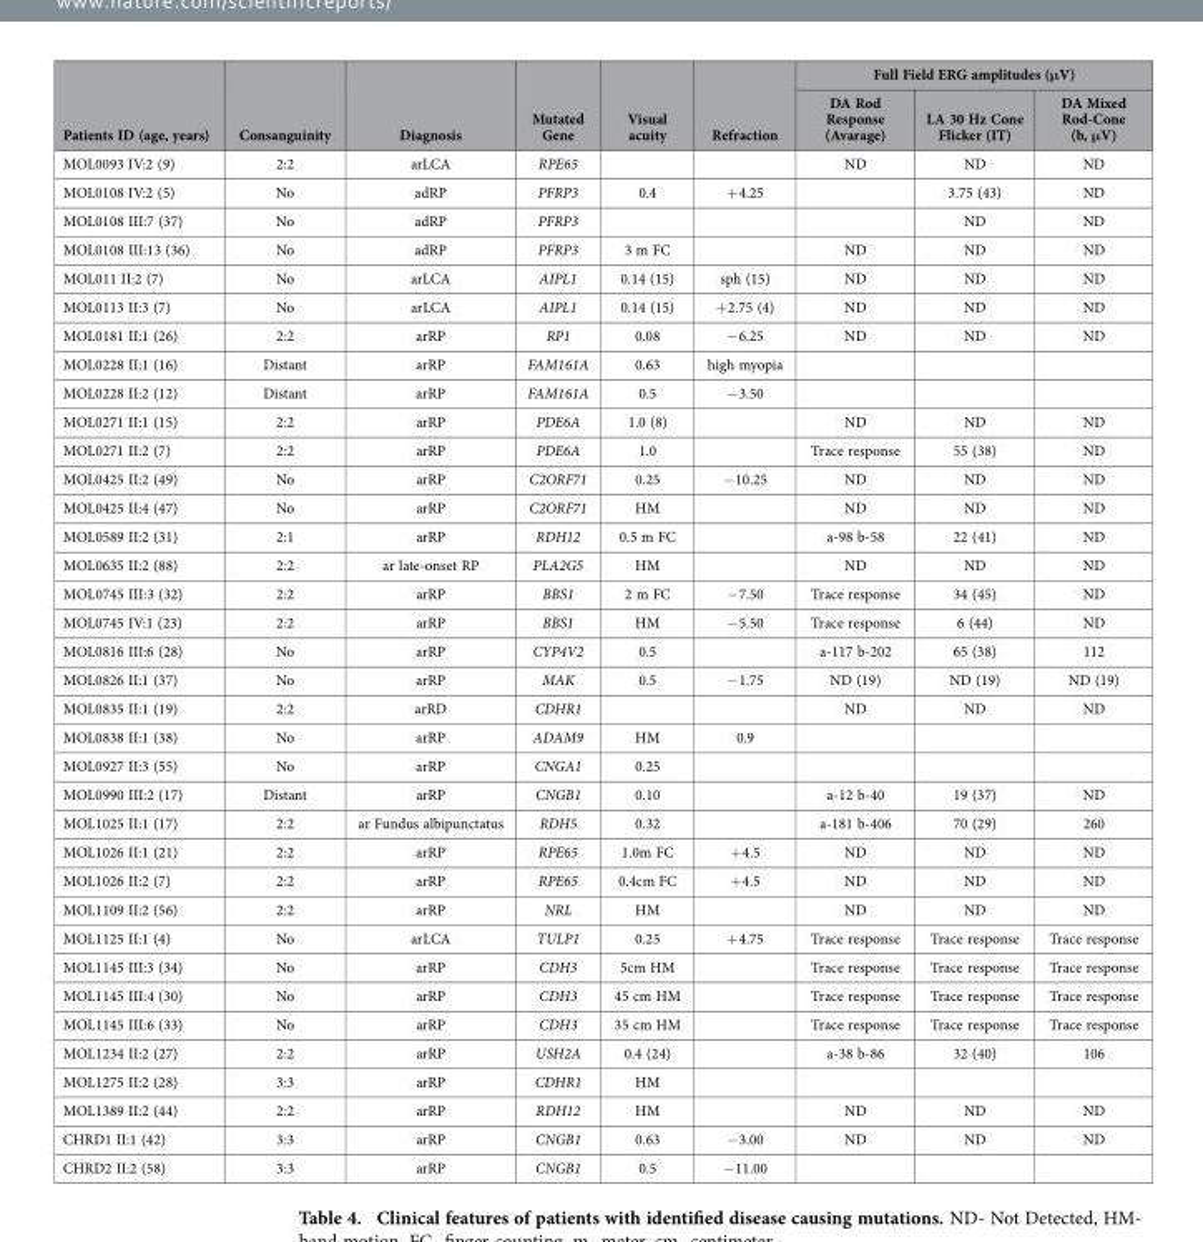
<table><thead><tr><td rowspan="2">Patients ID (age, years)</td><td rowspan="2">Consanguinity</td><td rowspan="2">Diagnosis</td><td rowspan="2">Mutated Gene</td><td rowspan="2">Visual acuity</td><td rowspan="2">Refraction</td><td colspan="3">Full Field ERG amplitudes (μV)</td></tr><tr><td>DA Rod Response (Avarage)</td><td>LA 30 Hz Cone Flicker (IT)</td><td>DA Mixed Rod-Cone (b, μV)</td></tr></thead><tbody><tr><td>MOL0093 IV:2 (9)</td><td>2:2</td><td>arLCA</td><td>RPE65</td><td></td><td></td><td>ND</td><td>ND</td><td>ND</td></tr><tr><td>MOL0108 IV:2 (5)</td><td>No</td><td>adRP</td><td>PFRP3</td><td>0.4</td><td>+ 4.25</td><td></td><td>3.75 (43)</td><td>ND</td></tr><tr><td>MOL0108 III:7 (37)</td><td>No</td><td>adRP</td><td>PFRP3</td><td></td><td></td><td></td><td>ND</td><td>ND</td></tr><tr><td>MOL0108 III:13 (36)</td><td>No</td><td>adRP</td><td>PFRP3</td><td>3 m FC</td><td></td><td>ND</td><td>ND</td><td>ND</td></tr><tr><td>MOL011 II:2 (7)</td><td>No</td><td>arLCA</td><td>AIPL1</td><td>0.14 (15)</td><td>sph (15)</td><td>ND</td><td>ND</td><td>ND</td></tr><tr><td>MOL0113 II:3 (7)</td><td>No</td><td>arLCA</td><td>AIPL1</td><td>0.14 (15)</td><td>+ 2.75 (4)</td><td>ND</td><td>ND</td><td>ND</td></tr><tr><td>MOL0181 II:1 (26)</td><td>2:2</td><td>arRP</td><td>RP1</td><td>0.08</td><td>− 6.25</td><td>ND</td><td>ND</td><td>ND</td></tr><tr><td>MOL0228 II:1 (16)</td><td>Distant</td><td>arRP</td><td>FAM161A</td><td>0.63</td><td>high myopia</td><td></td><td></td><td></td></tr><tr><td>MOL0228 II:2 (12)</td><td>Distant</td><td>arRP</td><td>FAM161A</td><td>0.5</td><td>− 3.50</td><td></td><td></td><td></td></tr><tr><td>MOL0271 II:1 (15)</td><td>2:2</td><td>arRP</td><td>PDE6A</td><td>1.0 (8)</td><td></td><td>ND</td><td>ND</td><td>ND</td></tr><tr><td>MOL0271 II:2 (7)</td><td>2:2</td><td>arRP</td><td>PDE6A</td><td>1.0</td><td></td><td>Trace response</td><td>55 (38)</td><td>ND</td></tr><tr><td>MOL0425 II:2 (49)</td><td>No</td><td>arRP</td><td>C2ORF71</td><td>0.25</td><td>− 10.25</td><td>ND</td><td>ND</td><td>ND</td></tr><tr><td>MOL0425 II:4 (47)</td><td>No</td><td>arRP</td><td>C2ORF71</td><td>HM</td><td></td><td>ND</td><td>ND</td><td>ND</td></tr><tr><td>MOL0589 II:2 (31)</td><td>2:1</td><td>arRP</td><td>RDH12</td><td>0.5 m FC</td><td></td><td>a-98 b-58</td><td>22 (41)</td><td>ND</td></tr><tr><td>MOL0635 II:2 (88)</td><td>2:2</td><td>ar late-onset RP</td><td>PLA2G5</td><td>HM</td><td></td><td>ND</td><td>ND</td><td>ND</td></tr><tr><td>MOL0745 III:3 (32)</td><td>2:2</td><td>arRP</td><td>BBS1</td><td>2 m FC</td><td>− 7.50</td><td>Trace response</td><td>34 (45)</td><td>ND</td></tr><tr><td>MOL0745 IV:1 (23)</td><td>2:2</td><td>arRP</td><td>BBS1</td><td>HM</td><td>− 5.50</td><td>Trace response</td><td>6 (44)</td><td>ND</td></tr><tr><td>MOL0816 III:6 (28)</td><td>No</td><td>arRP</td><td>CYP4V2</td><td>0.5</td><td></td><td>a-117 b-202</td><td>65 (38)</td><td>112</td></tr><tr><td>MOL0826 II:1 (37)</td><td>No</td><td>arRP</td><td>MAK</td><td>0.5</td><td>− 1.75</td><td>ND (19)</td><td>ND (19)</td><td>ND (19)</td></tr><tr><td>MOL0835 II:1 (19)</td><td>2:2</td><td>arRD</td><td>CDHR1</td><td></td><td></td><td>ND</td><td>ND</td><td>ND</td></tr><tr><td>MOL0838 II:1 (38)</td><td>No</td><td>arRP</td><td>ADAM9</td><td>HM</td><td>0.9</td><td></td><td></td><td></td></tr><tr><td>MOL0927 II:3 (55)</td><td>No</td><td>arRP</td><td>CNGA1</td><td>0.25</td><td></td><td></td><td></td><td></td></tr><tr><td>MOL0990 III:2 (17)</td><td>Distant</td><td>arRP</td><td>CNGB1</td><td>0.10</td><td></td><td>a-12 b-40</td><td>19 (37)</td><td>ND</td></tr><tr><td>MOL1025 II:1 (17)</td><td>2:2</td><td>ar Fundus albipunctatus</td><td>RDH5</td><td>0.32</td><td></td><td>a-181 b-406</td><td>70 (29)</td><td>260</td></tr><tr><td>MOL1026 II:1 (21)</td><td>2:2</td><td>arRP</td><td>RPE65</td><td>1.0m FC</td><td>+ 4.5</td><td>ND</td><td>ND</td><td>ND</td></tr><tr><td>MOL1026 II:2 (7)</td><td>2:2</td><td>arRP</td><td>RPE65</td><td>0.4cm FC</td><td>+ 4.5</td><td>ND</td><td>ND</td><td>ND</td></tr><tr><td>MOL1109 II:2 (56)</td><td>2:2</td><td>arRP</td><td>NRL</td><td>HM</td><td></td><td>ND</td><td>ND</td><td>ND</td></tr><tr><td>MOL1125 II:1 (4)</td><td>No</td><td>arLCA</td><td>TULP1</td><td>0.25</td><td>+ 4.75</td><td>Trace response</td><td>Trace response</td><td>Trace response</td></tr><tr><td>MOL1145 III:3 (34)</td><td>No</td><td>arRP</td><td>CDH3</td><td>5cm HM</td><td></td><td>Trace response</td><td>Trace response</td><td>Trace response</td></tr><tr><td>MOL1145 III:4 (30)</td><td>No</td><td>arRP</td><td>CDH3</td><td>45 cm HM</td><td></td><td>Trace response</td><td>Trace response</td><td>Trace response</td></tr><tr><td>MOL1145 III:6 (33)</td><td>No</td><td>arRP</td><td>CDH3</td><td>35 cm HM</td><td></td><td>Trace response</td><td>Trace response</td><td>Trace response</td></tr><tr><td>MOL1234 II:2 (27)</td><td>2:2</td><td>arRP</td><td>USH2A</td><td>0.4 (24)</td><td></td><td>a-38 b-86</td><td>32 (40)</td><td>106</td></tr><tr><td>MOL1275 II:2 (28)</td><td>3:3</td><td>arRP</td><td>CDHR1</td><td>HM</td><td></td><td></td><td></td><td></td></tr><tr><td>MOL1389 II:2 (44)</td><td>2:2</td><td>arRP</td><td>RDH12</td><td>HM</td><td></td><td>ND</td><td>ND</td><td>ND</td></tr><tr><td>CHRD1 II:1 (42)</td><td>3:3</td><td>arRP</td><td>CNGB1</td><td>0.63</td><td>− 3.00</td><td>ND</td><td>ND</td><td>ND</td></tr><tr><td>CHRD2 II:2 (58)</td><td>3:3</td><td>arRP</td><td>CNGB1</td><td>0.5</td><td>− 11.00</td><td></td><td></td><td></td></tr></tbody></table>